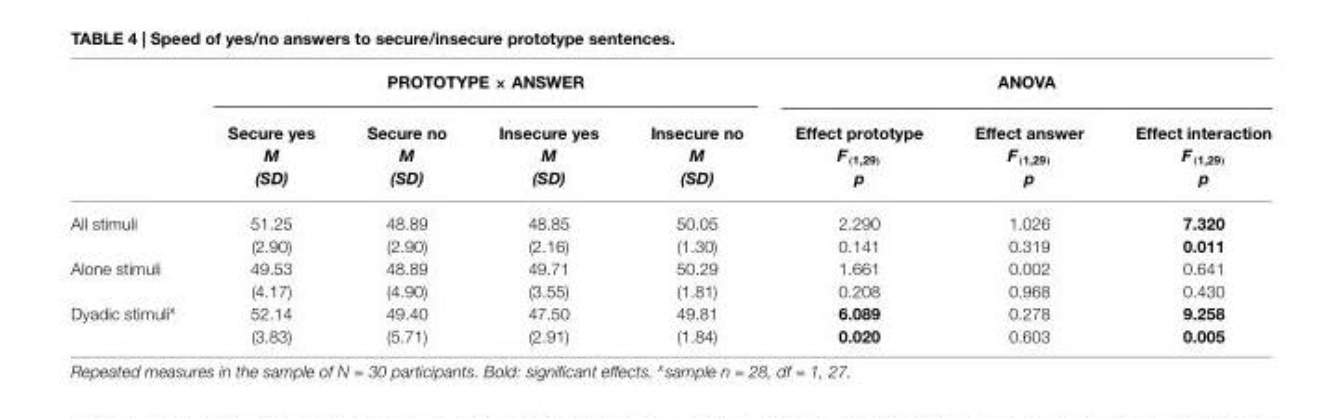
<table><thead><tr><td rowspan="4"></td><td colspan="4">PROTOTYPE × ANSWER</td><td colspan="3">ANOVA</td></tr><tr><td rowspan="3">Secure yes M (SD)</td><td rowspan="3">Secure no M (SD)</td><td rowspan="3">Insecure yes M (SD)</td><td rowspan="3">Insecure no M (SD)</td><td rowspan="3">Effect prototype F<sub>(1,29)</sub> p</td><td rowspan="3">Effect answer F<sub>(1,29)</sub> p</td><td rowspan="3">Effect interaction F<sub>(1,29)</sub> p</td></tr><tr></tr><tr></tr></thead><tbody><tr><td rowspan="2">All stimuli</td><td>51.25</td><td>48.89</td><td>48.85</td><td>50.05</td><td>2.290</td><td>1.026</td><td>7.320</td></tr><tr><td>(2.90)</td><td>(2.90)</td><td>(2.16)</td><td>(1.30)</td><td>0.141</td><td>0.319</td><td>0.011</td></tr><tr><td rowspan="2">Alone stimuli</td><td>49.53</td><td>48.89</td><td>49.71</td><td>50.29</td><td>1.661</td><td>0.002</td><td>0.641</td></tr><tr><td>(4.17)</td><td>(4.90)</td><td>(3.55)</td><td>(1.81)</td><td>0.208</td><td>0.968</td><td>0.430</td></tr><tr><td rowspan="2">Dyadic stimuli<sup>x</sup></td><td>52.14</td><td>49.40</td><td>47.50</td><td>49.81</td><td>6.089</td><td>0.278</td><td>9.258</td></tr><tr><td>(3.83)</td><td>(5.71)</td><td>(2.91)</td><td>(1.84)</td><td>0.020</td><td>0.603</td><td>0.005</td></tr></tbody></table>